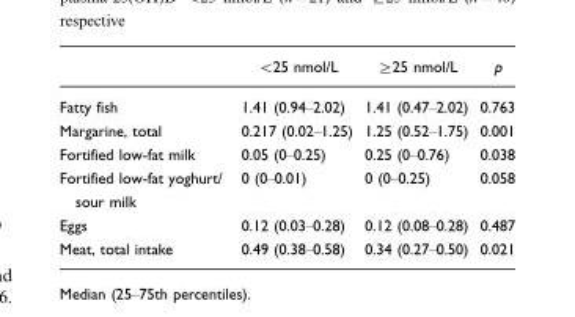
<table><thead><tr><td></td><td>&lt;25 nmol/L</td><td>≥25 nmol/L</td><td>p</td></tr></thead><tbody><tr><td>Fatty fish</td><td>1.41 (0.94–2.02)</td><td>1.41 (0.47–2.02)</td><td>0.763</td></tr><tr><td>Margarine, total</td><td>0.217 (0.02–1.25)</td><td>1.25 (0.52–1.75)</td><td>0.001</td></tr><tr><td>Fortified low-fat milk</td><td>0.05 (0–0.25)</td><td>0.25 (0–0.76)</td><td>0.038</td></tr><tr><td>Fortified low-fat yoghurt/ sour milk</td><td>0 (0–0.01)</td><td>0 (0–0.25)</td><td>0.058</td></tr><tr><td>Eggs</td><td>0.12 (0.03–0.28)</td><td>0.12 (0.08–0.28)</td><td>0.487</td></tr><tr><td>Meat, total intake</td><td>0.49 (0.38–0.58)</td><td>0.34 (0.27–0.50)</td><td>0.021</td></tr></tbody></table>